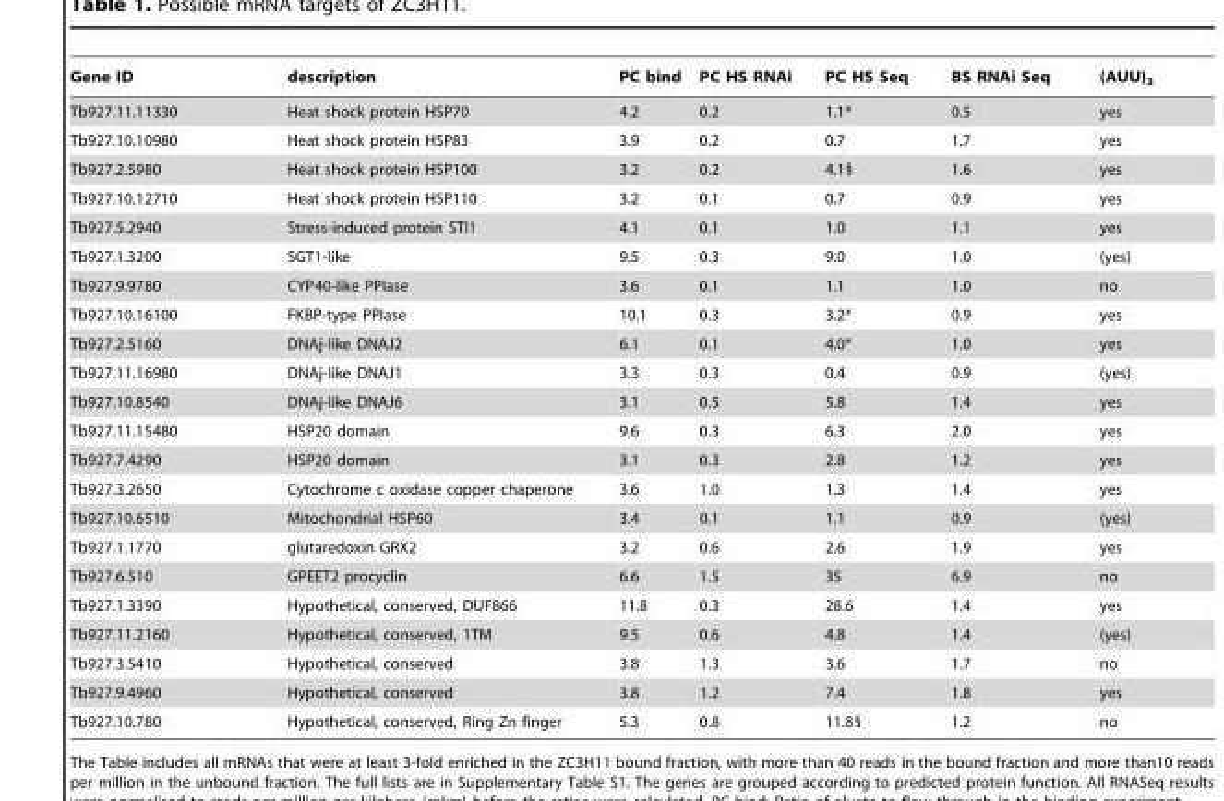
<table><thead><tr><td>Gene ID</td><td>description</td><td>PC bind</td><td>PC HS RNAi</td><td>PC HS Seq</td><td>BS RNAi Seq</td><td>(AUU)<sub>3</sub></td></tr></thead><tbody><tr><td>Tb927.11.11330</td><td>Heat shock protein HSP70</td><td>4.2</td><td>0.2</td><td>1.1*</td><td>0.5</td><td>yes</td></tr><tr><td>Tb927.10.10980</td><td>Heat shock protein HSP83</td><td>3.9</td><td>0.2</td><td>0.7</td><td>1.7</td><td>yes</td></tr><tr><td>Tb927.2.5980</td><td>Heat shock protein HSP100</td><td>3.2</td><td>0.2</td><td>4.1§</td><td>1.6</td><td>yes</td></tr><tr><td>Tb927.10.12710</td><td>Heat shock protein HSP110</td><td>3.2</td><td>0.1</td><td>0.7</td><td>0.9</td><td>yes</td></tr><tr><td>Tb927.5.2940</td><td>Stress-induced protein STI1</td><td>4.1</td><td>0.1</td><td>1.0</td><td>1.1</td><td>yes</td></tr><tr><td>Tb927.1.3200</td><td>SGT1-like</td><td>9.5</td><td>0.3</td><td>9.0</td><td>1.0</td><td>(yes)</td></tr><tr><td>Tb927.9.9780</td><td>CYP40-like PPIase</td><td>3.6</td><td>0.1</td><td>1.1</td><td>1.0</td><td>no</td></tr><tr><td>Tb927.10.16100</td><td>FKBP-type PPIase</td><td>10.1</td><td>0.3</td><td>3.2*</td><td>0.9</td><td>yes</td></tr><tr><td>Tb927.2.5160</td><td>DNAj-like DNAJ2</td><td>6.1</td><td>0.1</td><td>4.0*</td><td>1.0</td><td>yes</td></tr><tr><td>Tb927.11.16980</td><td>DNAj-like DNAJ1</td><td>3.3</td><td>0.3</td><td>0.4</td><td>0.9</td><td>(yes)</td></tr><tr><td>Tb927.10.8540</td><td>DNAj-like DNAJ6</td><td>3.1</td><td>0.5</td><td>5.8</td><td>1.4</td><td>yes</td></tr><tr><td>Tb927.11.15480</td><td>HSP20 domain</td><td>9.6</td><td>0.3</td><td>6.3</td><td>2.0</td><td>yes</td></tr><tr><td>Tb927.7.4290</td><td>HSP20 domain</td><td>3.1</td><td>0.3</td><td>2.8</td><td>1.2</td><td>yes</td></tr><tr><td>Tb927.3.2650</td><td>Cytochrome c oxidase copper chaperone</td><td>3.6</td><td>1.0</td><td>1.3</td><td>1.4</td><td>yes</td></tr><tr><td>Tb927.10.6510</td><td>Mitochondrial HSP60</td><td>3.4</td><td>0.1</td><td>1.1</td><td>0.9</td><td>(yes)</td></tr><tr><td>Tb927.1.1770</td><td>glutaredoxin GRX2</td><td>3.2</td><td>0.6</td><td>2.6</td><td>1.9</td><td>yes</td></tr><tr><td>Tb927.6.510</td><td>GPEET2 procyclin</td><td>6.6</td><td>1.5</td><td>35</td><td>6.9</td><td>no</td></tr><tr><td>Tb927.1.3390</td><td>Hypothetical, conserved, DUF866</td><td>11.8</td><td>0.3</td><td>28.6</td><td>1.4</td><td>yes</td></tr><tr><td>Tb927.11.2160</td><td>Hypothetical, conserved, 1TM</td><td>9.5</td><td>0.6</td><td>4.8</td><td>1.4</td><td>(yes)</td></tr><tr><td>Tb927.3.5410</td><td>Hypothetical, conserved</td><td>3.8</td><td>1.3</td><td>3.6</td><td>1.7</td><td>no</td></tr><tr><td>Tb927.9.4960</td><td>Hypothetical, conserved</td><td>3.8</td><td>1.2</td><td>7.4</td><td>1.8</td><td>yes</td></tr><tr><td>Tb927.10.780</td><td>Hypothetical, conserved, Ring Zn finger</td><td>5.3</td><td>0.8</td><td>11.8§</td><td>1.2</td><td>no</td></tr></tbody></table>